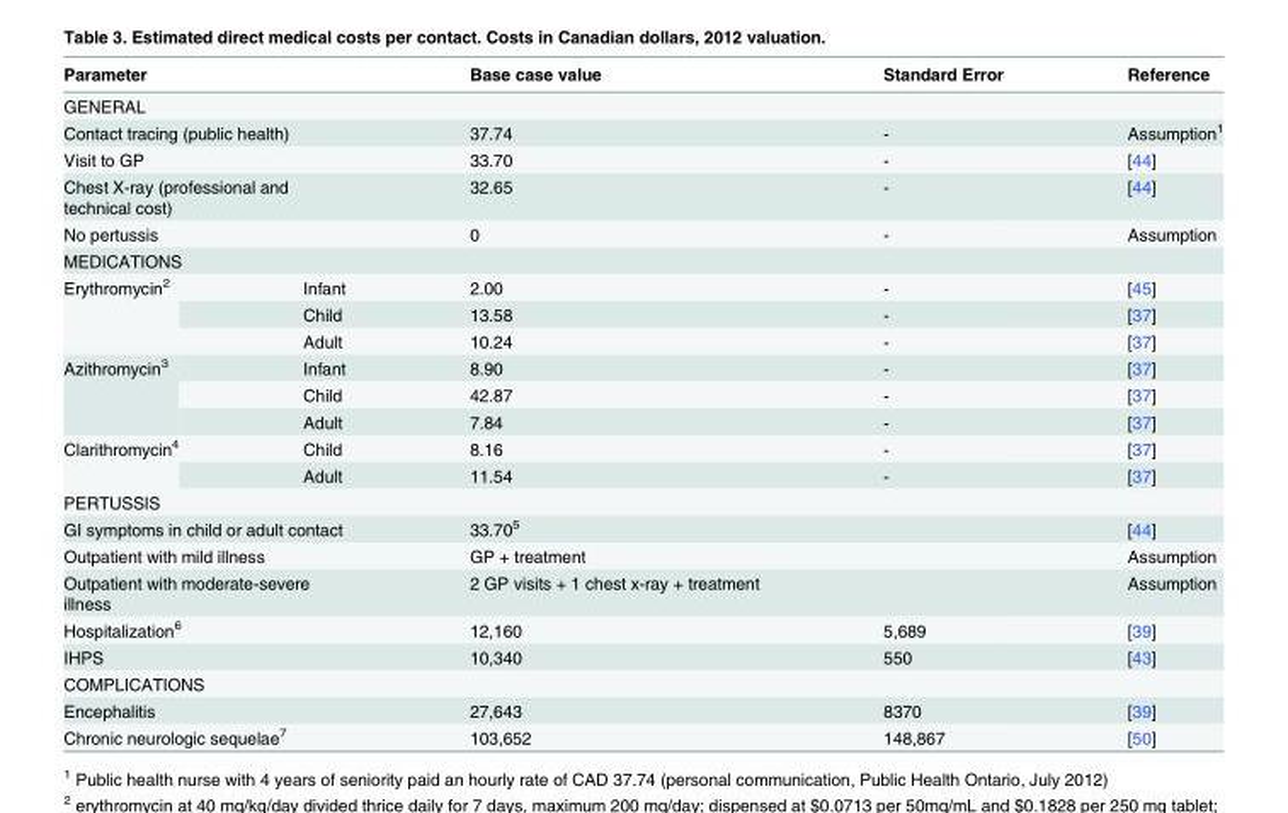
<table><thead><tr><td colspan="2">Parameter</td><td>Base case value</td><td>Standard Error</td><td>Reference</td></tr></thead><tbody><tr><td colspan="5">GENERAL</td></tr><tr><td colspan="2">Contact tracing (public health)</td><td>37.74</td><td>-</td><td>Assumption<sup>1</sup></td></tr><tr><td colspan="2">Visit to GP</td><td>33.70</td><td>-</td><td>[44]</td></tr><tr><td colspan="2">Chest X-ray (professional and technical cost)</td><td>32.65</td><td>-</td><td>[44]</td></tr><tr><td colspan="2">No pertussis</td><td>0</td><td>-</td><td>Assumption</td></tr><tr><td colspan="5">MEDICATIONS</td></tr><tr><td rowspan="3">Erythromycin<sup>2</sup></td><td>Infant</td><td>2.00</td><td>-</td><td>[45]</td></tr><tr><td>Child</td><td>13.58</td><td>-</td><td>[37]</td></tr><tr><td>Adult</td><td>10.24</td><td>-</td><td>[37]</td></tr><tr><td rowspan="3">Azithromycin<sup>3</sup></td><td>Infant</td><td>8.90</td><td>-</td><td>[37]</td></tr><tr><td>Child</td><td>42.87</td><td>-</td><td>[37]</td></tr><tr><td>Adult</td><td>7.84</td><td>-</td><td>[37]</td></tr><tr><td rowspan="2">Clarithromycin<sup>4</sup></td><td>Child</td><td>8.16</td><td>-</td><td>[37]</td></tr><tr><td>Adult</td><td>11.54</td><td>-</td><td>[37]</td></tr><tr><td colspan="5">PERTUSSIS</td></tr><tr><td colspan="2">GI symptoms in child or adult contact</td><td>33.70<sup>5</sup></td><td></td><td>[44]</td></tr><tr><td colspan="2">Outpatient with mild illness</td><td>GP + treatment</td><td></td><td>Assumption</td></tr><tr><td colspan="2">Outpatient with moderate-severe illness</td><td>2 GP visits + 1 chest x-ray + treatment</td><td></td><td>Assumption</td></tr><tr><td colspan="2">Hospitalization<sup>6</sup></td><td>12,160</td><td>5,689</td><td>[39]</td></tr><tr><td colspan="2">IHPS</td><td>10,340</td><td>550</td><td>[43]</td></tr><tr><td colspan="5">COMPLICATIONS</td></tr><tr><td colspan="2">Encephalitis</td><td>27,643</td><td>8370</td><td>[39]</td></tr><tr><td colspan="2">Chronic neurologic sequelae<sup>7</sup></td><td>103,652</td><td>148,867</td><td>[50]</td></tr></tbody></table>